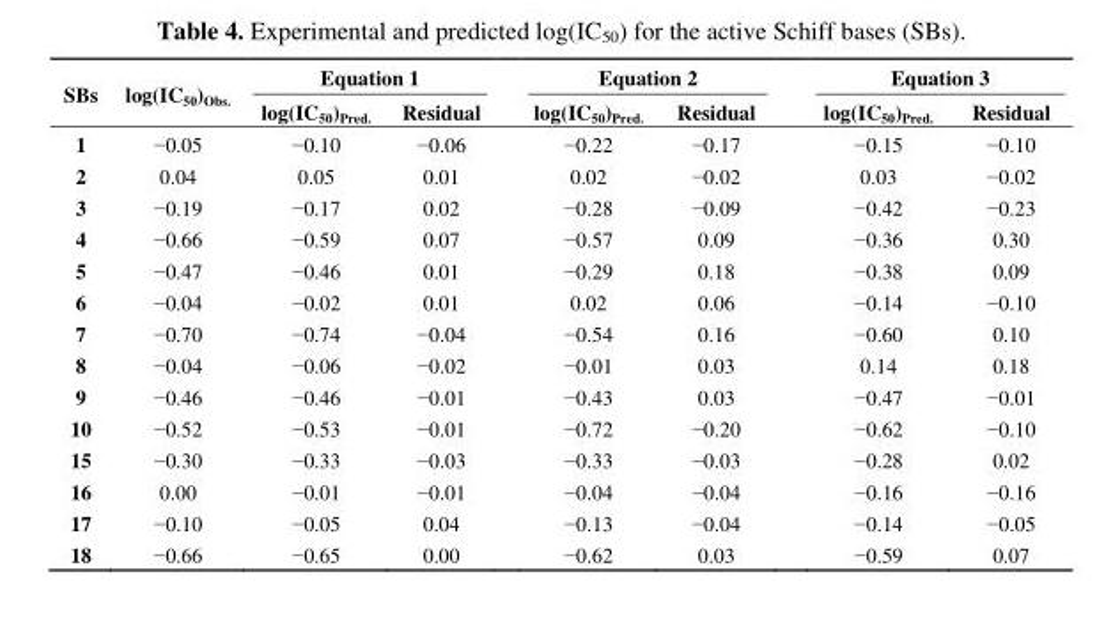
<table><thead><tr><td rowspan="2">SBs</td><td rowspan="2">log(IC<sub>50</sub>)<sub>Obs.</sub></td><td colspan="2">Equation 1</td><td colspan="2">Equation 2</td><td colspan="2">Equation 3</td></tr><tr><td>log(IC<sub>50</sub>)<sub>Pred.</sub></td><td>Residual</td><td>log(IC<sub>50</sub>)<sub>Pred.</sub></td><td>Residual</td><td>log(IC<sub>50</sub>)<sub>Pred.</sub></td><td>Residual</td></tr></thead><tbody><tr><td>1</td><td>−0.05</td><td>−0.10</td><td>−0.06</td><td>−0.22</td><td>−0.17</td><td>−0.15</td><td>−0.10</td></tr><tr><td>2</td><td>0.04</td><td>0.05</td><td>0.01</td><td>0.02</td><td>−0.02</td><td>0.03</td><td>−0.02</td></tr><tr><td>3</td><td>−0.19</td><td>−0.17</td><td>0.02</td><td>−0.28</td><td>−0.09</td><td>−0.42</td><td>−0.23</td></tr><tr><td>4</td><td>−0.66</td><td>−0.59</td><td>0.07</td><td>−0.57</td><td>0.09</td><td>−0.36</td><td>0.30</td></tr><tr><td>5</td><td>−0.47</td><td>−0.46</td><td>0.01</td><td>−0.29</td><td>0.18</td><td>−0.38</td><td>0.09</td></tr><tr><td>6</td><td>−0.04</td><td>−0.02</td><td>0.01</td><td>0.02</td><td>0.06</td><td>−0.14</td><td>−0.10</td></tr><tr><td>7</td><td>−0.70</td><td>−0.74</td><td>−0.04</td><td>−0.54</td><td>0.16</td><td>−0.60</td><td>0.10</td></tr><tr><td>8</td><td>−0.04</td><td>−0.06</td><td>−0.02</td><td>−0.01</td><td>0.03</td><td>0.14</td><td>0.18</td></tr><tr><td>9</td><td>−0.46</td><td>−0.46</td><td>−0.01</td><td>−0.43</td><td>0.03</td><td>−0.47</td><td>−0.01</td></tr><tr><td>10</td><td>−0.52</td><td>−0.53</td><td>−0.01</td><td>−0.72</td><td>−0.20</td><td>−0.62</td><td>−0.10</td></tr><tr><td>15</td><td>−0.30</td><td>−0.33</td><td>−0.03</td><td>−0.33</td><td>−0.03</td><td>−0.28</td><td>0.02</td></tr><tr><td>16</td><td>0.00</td><td>−0.01</td><td>−0.01</td><td>−0.04</td><td>−0.04</td><td>−0.16</td><td>−0.16</td></tr><tr><td>17</td><td>−0.10</td><td>−0.05</td><td>0.04</td><td>−0.13</td><td>−0.04</td><td>−0.14</td><td>−0.05</td></tr><tr><td>18</td><td>−0.66</td><td>−0.65</td><td>0.00</td><td>−0.62</td><td>0.03</td><td>−0.59</td><td>0.07</td></tr></tbody></table>